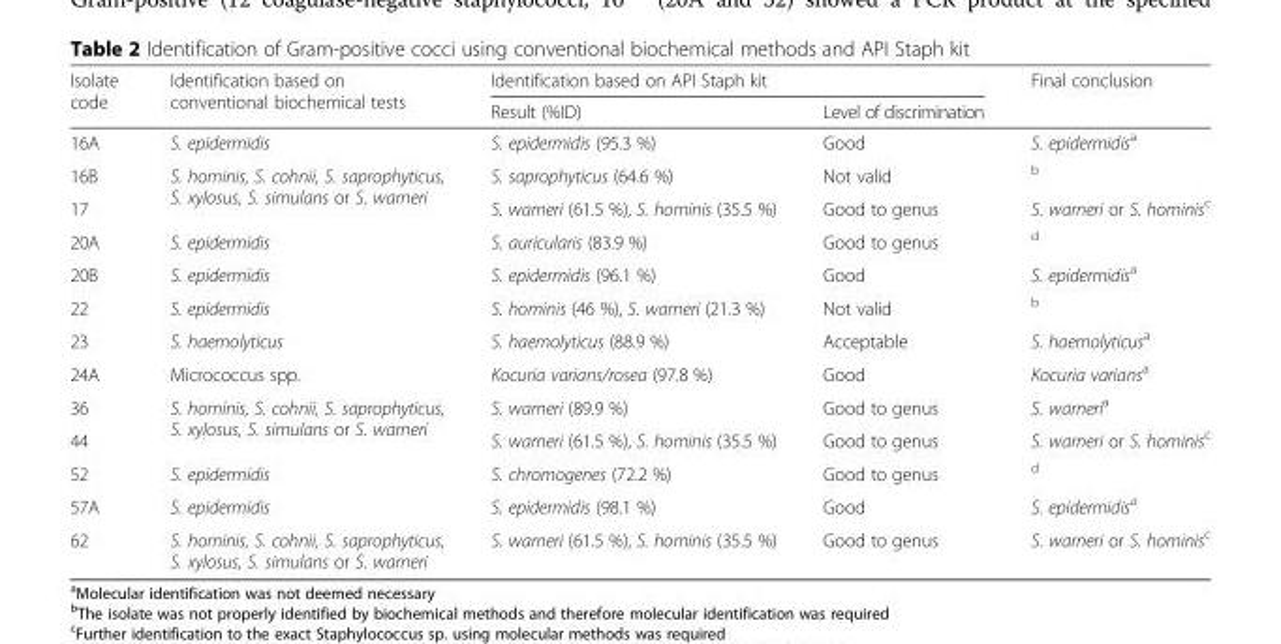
<table><thead><tr><td rowspan="2">Isolate code</td><td rowspan="2">Identification based on conventional biochemical tests</td><td colspan="2">Identification based on API Staph kit</td><td rowspan="2">Final conclusion</td></tr><tr><td>Result (%ID)</td><td>Level of discrimination</td></tr></thead><tbody><tr><td>16A</td><td>S. epidermidis</td><td>S. epidermidis (95.3 %)</td><td>Good</td><td>S. epidermidis<sup>a</sup></td></tr><tr><td>16B</td><td rowspan="2">S. hominis, S. cohnii, S. saprophyticus, S. xylosus, S. simulans or S. warneri</td><td>S. saprophyticus (64.6 %)</td><td>Not valid</td><td><sup>b</sup></td></tr><tr><td>17</td><td>S. warneri (61.5 %), S. hominis (35.5 %)</td><td>Good to genus</td><td>S. warneri or S. hominis<sup>c</sup></td></tr><tr><td>20A</td><td>S. epidermidis</td><td>S. auricularis (83.9 %)</td><td>Good to genus</td><td><sup>d</sup></td></tr><tr><td>20B</td><td>S. epidermidis</td><td>S. epidermidis (96.1 %)</td><td>Good</td><td>S. epidermidis<sup>a</sup></td></tr><tr><td>22</td><td>S. epidermidis</td><td>S. hominis (46 %), S. warneri (21.3 %)</td><td>Not valid</td><td><sup>b</sup></td></tr><tr><td>23</td><td>S. haemolyticus</td><td>S. haemolyticus (88.9 %)</td><td>Acceptable</td><td>S. haemolyticus<sup>a</sup></td></tr><tr><td>24A</td><td>Micrococcus spp.</td><td>Kocuria varians/rosea (97.8 %)</td><td>Good</td><td>Kocuria varians<sup>a</sup></td></tr><tr><td>36</td><td rowspan="2">S. hominis, S. cohnii, S. saprophyticus, S. xylosus, S. simulans or S. warneri</td><td>S. warneri (89.9 %)</td><td>Good to genus</td><td>S. warneri<sup>a</sup></td></tr><tr><td>44</td><td>S. warneri (61.5 %), S. hominis (35.5 %)</td><td>Good to genus</td><td>S. warneri or S. hominis<sup>c</sup></td></tr><tr><td>52</td><td>S. epidermidis</td><td>S. chromogenes (72.2 %)</td><td>Good to genus</td><td><sup>d</sup></td></tr><tr><td>57A</td><td>S. epidermidis</td><td>S. epidermidis (98.1 %)</td><td>Good</td><td>S. epidermidis<sup>a</sup></td></tr><tr><td>62</td><td>S. hominis, S. cohnii, S. saprophyticus, S. xylosus, S. simulans or S. warneri</td><td>S. warneri (61.5 %), S. hominis (35.5 %)</td><td>Good to genus</td><td>S. warneri or S. hominis<sup>c</sup></td></tr></tbody></table>